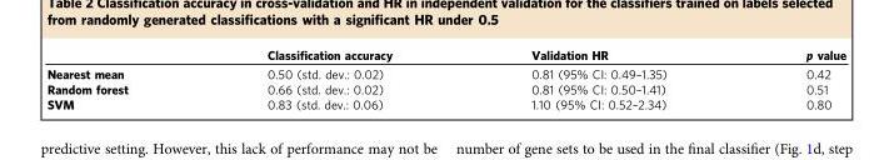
<table><thead><tr><td></td><td>Classification accuracy</td><td>Validation HR</td><td>p value</td></tr></thead><tbody><tr><td>Nearest mean</td><td>0.50 (std. dev.: 0.02)</td><td>0.81 (95% CI: 0.49–1.35)</td><td>0.42</td></tr><tr><td>Random forest</td><td>0.66 (std. dev.: 0.02)</td><td>0.81 (95% CI: 0.50–1.41)</td><td>0.51</td></tr><tr><td>SVM</td><td>0.83 (std. dev.: 0.06)</td><td>1.10 (95% CI: 0.52–2.34)</td><td>0.80</td></tr></tbody></table>